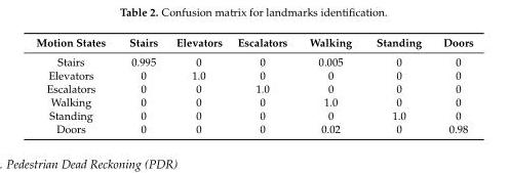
<table><thead><tr><td>Motion States</td><td>Stairs</td><td>Elevators</td><td>Escalators</td><td>Walking</td><td>Standing</td><td>Doors</td></tr></thead><tbody><tr><td>Stairs</td><td>0.995</td><td>0</td><td>0</td><td>0.005</td><td>0</td><td>0</td></tr><tr><td>Elevators</td><td>0</td><td>1.0</td><td>0</td><td>0</td><td>0</td><td>0</td></tr><tr><td>Escalators</td><td>0</td><td>0</td><td>1.0</td><td>0</td><td>0</td><td>0</td></tr><tr><td>Walking</td><td>0</td><td>0</td><td>0</td><td>1.0</td><td>0</td><td>0</td></tr><tr><td>Standing</td><td>0</td><td>0</td><td>0</td><td>0</td><td>1.0</td><td>0</td></tr><tr><td>Doors</td><td>0</td><td>0</td><td>0</td><td>0.02</td><td>0</td><td>0.98</td></tr></tbody></table>